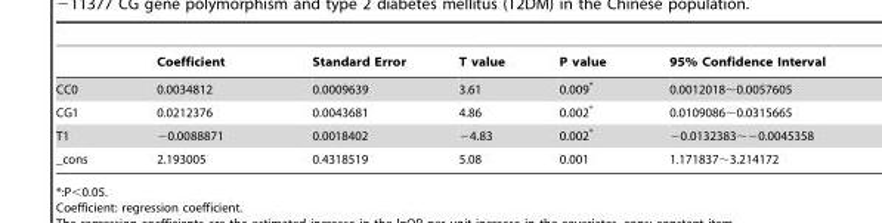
<table><thead><tr><td></td><td>Coefficient</td><td>Standard Error</td><td>T value</td><td>P value</td><td>95% Confidence Interval</td></tr></thead><tbody><tr><td>CC0</td><td>0.0034812</td><td>0.0009639</td><td>3.61</td><td>0.009*</td><td>0.0012018∼0.0057605</td></tr><tr><td>CG1</td><td>0.0212376</td><td>0.0043681</td><td>4.86</td><td>0.002*</td><td>0.0109086∼0.0315665</td></tr><tr><td>T1</td><td>−0.0088871</td><td>0.0018402</td><td>−4.83</td><td>0.002*</td><td>−0.0132383∼−0.0045358</td></tr><tr><td>_cons</td><td>2.193005</td><td>0.4318519</td><td>5.08</td><td>0.001</td><td>1.171837∼3.214172</td></tr></tbody></table>